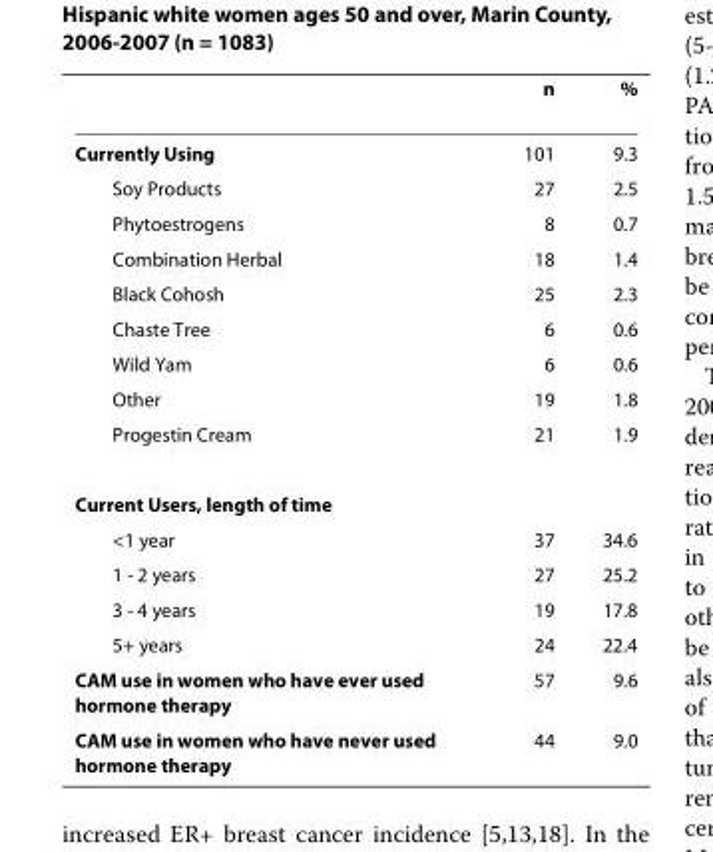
<table><thead><tr><td></td><td>n</td><td>%</td></tr></thead><tbody><tr><td>Currently Using</td><td>101</td><td>9.3</td></tr><tr><td>Soy Products</td><td>27</td><td>2.5</td></tr><tr><td>Phytoestrogens</td><td>8</td><td>0.7</td></tr><tr><td>Combination Herbal</td><td>18</td><td>1.4</td></tr><tr><td>Black Cohosh</td><td>25</td><td>2.3</td></tr><tr><td>Chaste Tree</td><td>6</td><td>0.6</td></tr><tr><td>Wild Yam</td><td>6</td><td>0.6</td></tr><tr><td>Other</td><td>19</td><td>1.8</td></tr><tr><td>Progestin Cream</td><td>21</td><td>1.9</td></tr><tr><td colspan="3">Current Users, length of time</td></tr><tr><td>&lt;1 year</td><td>37</td><td>34.6</td></tr><tr><td>1 - 2 years</td><td>27</td><td>25.2</td></tr><tr><td>3 - 4 years</td><td>19</td><td>17.8</td></tr><tr><td>5+ years</td><td>24</td><td>22.4</td></tr><tr><td>CAM use in women who have ever used hormone therapy</td><td>57</td><td>9.6</td></tr><tr><td>CAM use in women who have never used hormone therapy</td><td>44</td><td>9.0</td></tr></tbody></table>